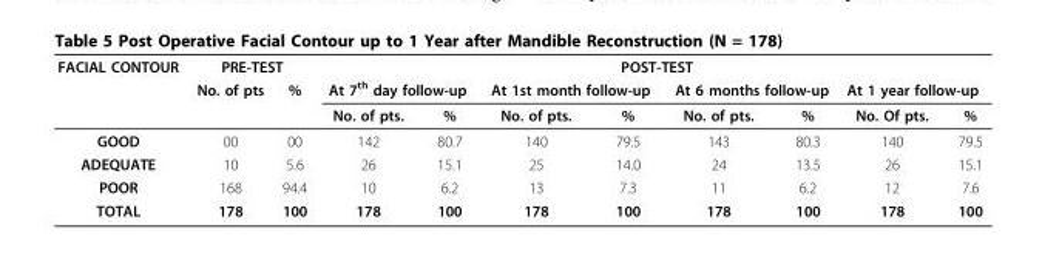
<table><thead><tr><td rowspan="3">FACIAL CONTOUR</td><td colspan="2">PRE-TEST</td><td colspan="8">POST-TEST</td></tr><tr><td rowspan="2">No. of pts</td><td rowspan="2">%</td><td colspan="2">At 7<sup>th</sup> day follow-up</td><td colspan="2">At 1st month follow-up</td><td colspan="2">At 6 months follow-up</td><td colspan="2">At 1 year follow-up</td></tr><tr><td>No. of pts.</td><td>%</td><td>No. of pts.</td><td>%</td><td>No. of pts.</td><td>%</td><td>No. Of pts.</td><td>%</td></tr></thead><tbody><tr><td>GOOD</td><td>00</td><td>00</td><td>142</td><td>80.7</td><td>140</td><td>79.5</td><td>143</td><td>80.3</td><td>140</td><td>79.5</td></tr><tr><td>ADEQUATE</td><td>10</td><td>5.6</td><td>26</td><td>15.1</td><td>25</td><td>14.0</td><td>24</td><td>13.5</td><td>26</td><td>15.1</td></tr><tr><td>POOR</td><td>168</td><td>94.4</td><td>10</td><td>6.2</td><td>13</td><td>7.3</td><td>11</td><td>6.2</td><td>12</td><td>7.6</td></tr><tr><td>TOTAL</td><td>178</td><td>100</td><td>178</td><td>100</td><td>178</td><td>100</td><td>178</td><td>100</td><td>178</td><td>100</td></tr></tbody></table>